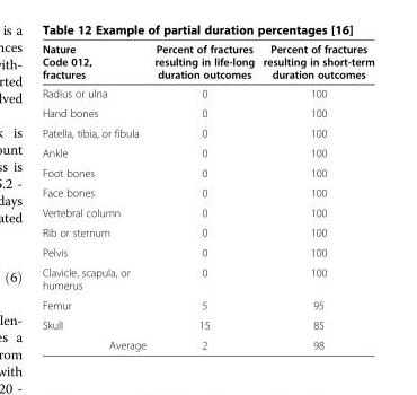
<table><thead><tr><td>Nature Code 012, fractures</td><td>Percent of fractures resulting in life-long duration outcomes</td><td>Percent of fractures resulting in short-term duration outcomes</td></tr></thead><tbody><tr><td>Radius or ulna</td><td>0</td><td>100</td></tr><tr><td>Hand bones</td><td>0</td><td>100</td></tr><tr><td>Patella, tibia, or fibula</td><td>0</td><td>100</td></tr><tr><td>Ankle</td><td>0</td><td>100</td></tr><tr><td>Foot bones</td><td>0</td><td>100</td></tr><tr><td>Face bones</td><td>0</td><td>100</td></tr><tr><td>Vertebral column</td><td>0</td><td>100</td></tr><tr><td>Rib or sternum</td><td>0</td><td>100</td></tr><tr><td>Pelvis</td><td>0</td><td>100</td></tr><tr><td>Clavicle, scapula, or humerus</td><td>0</td><td>100</td></tr><tr><td>Femur</td><td>5</td><td>95</td></tr><tr><td>Skull</td><td>15</td><td>85</td></tr><tr><td>Average</td><td>2</td><td>98</td></tr></tbody></table>